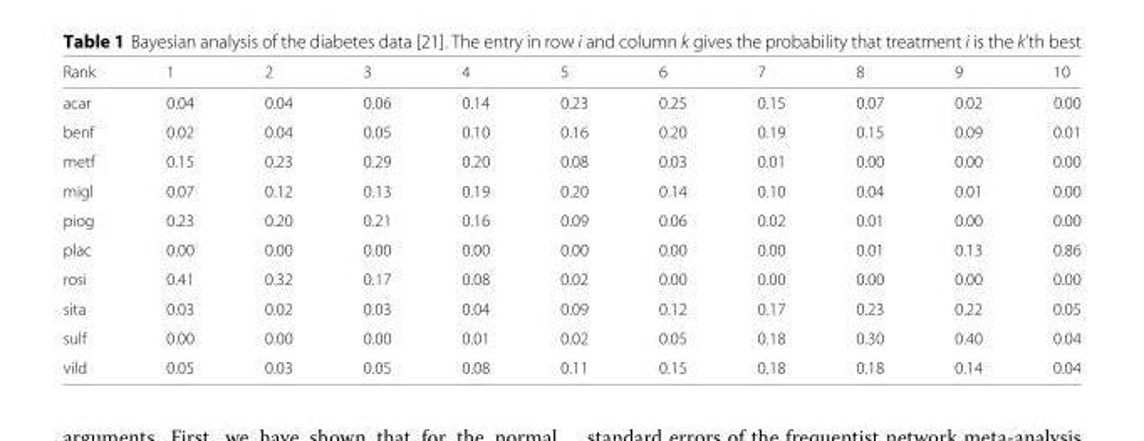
<table><thead><tr><td>Rank</td><td>1</td><td>2</td><td>3</td><td>4</td><td>5</td><td>6</td><td>7</td><td>8</td><td>9</td><td>10</td></tr></thead><tbody><tr><td>acar</td><td>0.04</td><td>0.04</td><td>0.06</td><td>0.14</td><td>0.23</td><td>0.25</td><td>0.15</td><td>0.07</td><td>0.02</td><td>0.00</td></tr><tr><td>benf</td><td>0.02</td><td>0.04</td><td>0.05</td><td>0.10</td><td>0.16</td><td>0.20</td><td>0.19</td><td>0.15</td><td>0.09</td><td>0.01</td></tr><tr><td>metf</td><td>0.15</td><td>0.23</td><td>0.29</td><td>0.20</td><td>0.08</td><td>0.03</td><td>0.01</td><td>0.00</td><td>0.00</td><td>0.00</td></tr><tr><td>migl</td><td>0.07</td><td>0.12</td><td>0.13</td><td>0.19</td><td>0.20</td><td>0.14</td><td>0.10</td><td>0.04</td><td>0.01</td><td>0.00</td></tr><tr><td>piog</td><td>0.23</td><td>0.20</td><td>0.21</td><td>0.16</td><td>0.09</td><td>0.06</td><td>0.02</td><td>0.01</td><td>0.00</td><td>0.00</td></tr><tr><td>plac</td><td>0.00</td><td>0.00</td><td>0.00</td><td>0.00</td><td>0.00</td><td>0.00</td><td>0.00</td><td>0.01</td><td>0.13</td><td>0.86</td></tr><tr><td>rosi</td><td>0.41</td><td>0.32</td><td>0.17</td><td>0.08</td><td>0.02</td><td>0.00</td><td>0.00</td><td>0.00</td><td>0.00</td><td>0.00</td></tr><tr><td>sita</td><td>0.03</td><td>0.02</td><td>0.03</td><td>0.04</td><td>0.09</td><td>0.12</td><td>0.17</td><td>0.23</td><td>0.22</td><td>0.05</td></tr><tr><td>sulf</td><td>0.00</td><td>0.00</td><td>0.00</td><td>0.01</td><td>0.02</td><td>0.05</td><td>0.18</td><td>0.30</td><td>0.40</td><td>0.04</td></tr><tr><td>vild</td><td>0.05</td><td>0.03</td><td>0.05</td><td>0.08</td><td>0.11</td><td>0.15</td><td>0.18</td><td>0.18</td><td>0.14</td><td>0.04</td></tr></tbody></table>